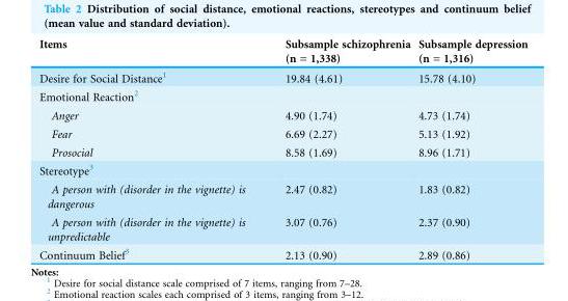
<table><thead><tr><td>Items</td><td>Subsample schizophrenia (n = 1,338)</td><td>Subsample depression (n = 1,316)</td></tr></thead><tbody><tr><td>Desire for Social Distance<sup>1</sup></td><td>19.84 (4.61)</td><td>15.78 (4.10)</td></tr><tr><td colspan="3">Emotional Reaction<sup>2</sup></td></tr><tr><td>Anger</td><td>4.90 (1.74)</td><td>4.73 (1.74)</td></tr><tr><td>Fear</td><td>6.69 (2.27)</td><td>5.13 (1.92)</td></tr><tr><td>Prosocial</td><td>8.58 (1.69)</td><td>8.96 (1.71)</td></tr><tr><td colspan="3">Stereotype<sup>3</sup></td></tr><tr><td>A person with (disorder in the vignette) is dangerous</td><td>2.47 (0.82)</td><td>1.83 (0.82)</td></tr><tr><td>A person with (disorder in the vignette) is unpredictable</td><td>3.07 (0.76)</td><td>2.37 (0.90)</td></tr><tr><td>Continuum Belief<sup>3</sup></td><td>2.13 (0.90)</td><td>2.89 (0.86)</td></tr></tbody></table>